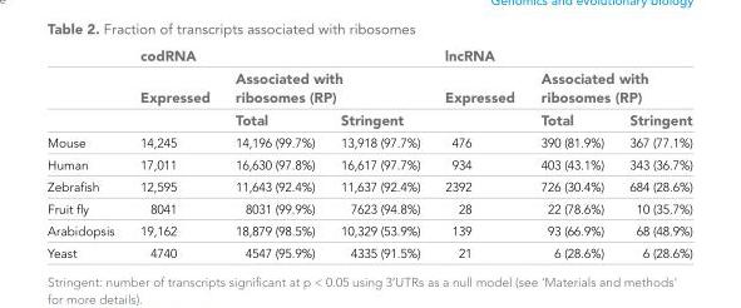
<table><thead><tr><td rowspan="3"></td><td colspan="3">codRNA</td><td colspan="3">lncRNA</td></tr><tr><td rowspan="2">Expressed</td><td colspan="2">Associated with ribosomes (RP)</td><td rowspan="2">Expressed</td><td colspan="2">Associated with ribosomes (RP)</td></tr><tr><td>Total</td><td>Stringent</td><td>Total</td><td>Stringent</td></tr></thead><tbody><tr><td>Mouse</td><td>14,245</td><td>14,196 (99.7%)</td><td>13,918 (97.7%)</td><td>476</td><td>390 (81.9%)</td><td>367 (77.1%)</td></tr><tr><td>Human</td><td>17,011</td><td>16,630 (97.8%)</td><td>16,617 (97.7%)</td><td>934</td><td>403 (43.1%)</td><td>343 (36.7%)</td></tr><tr><td>Zebrafish</td><td>12,595</td><td>11,643 (92.4%)</td><td>11,637 (92.4%)</td><td>2392</td><td>726 (30.4%)</td><td>684 (28.6%)</td></tr><tr><td>Fruit fly</td><td>8041</td><td>8031 (99.9%)</td><td>7623 (94.8%)</td><td>28</td><td>22 (78.6%)</td><td>10 (35.7%)</td></tr><tr><td>Arabidopsis</td><td>19,162</td><td>18,879 (98.5%)</td><td>10,329 (53.9%)</td><td>139</td><td>93 (66.9%)</td><td>68 (48.9%)</td></tr><tr><td>Yeast</td><td>4740</td><td>4547 (95.9%)</td><td>4335 (91.5%)</td><td>21</td><td>6 (28.6%)</td><td>6 (28.6%)</td></tr></tbody></table>